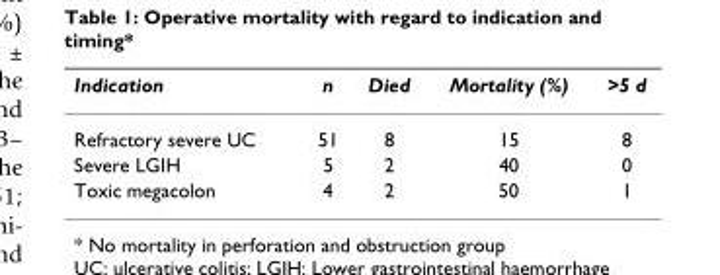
<table><thead><tr><td>Indication</td><td>n</td><td>Died</td><td>Mortality (%)</td><td>&gt;5 d</td></tr></thead><tbody><tr><td>Refractory severe UC</td><td>51</td><td>8</td><td>15</td><td>8</td></tr><tr><td>Severe LGIH</td><td>5</td><td>2</td><td>40</td><td>0</td></tr><tr><td>Toxic megacolon</td><td>4</td><td>2</td><td>50</td><td>1</td></tr></tbody></table>